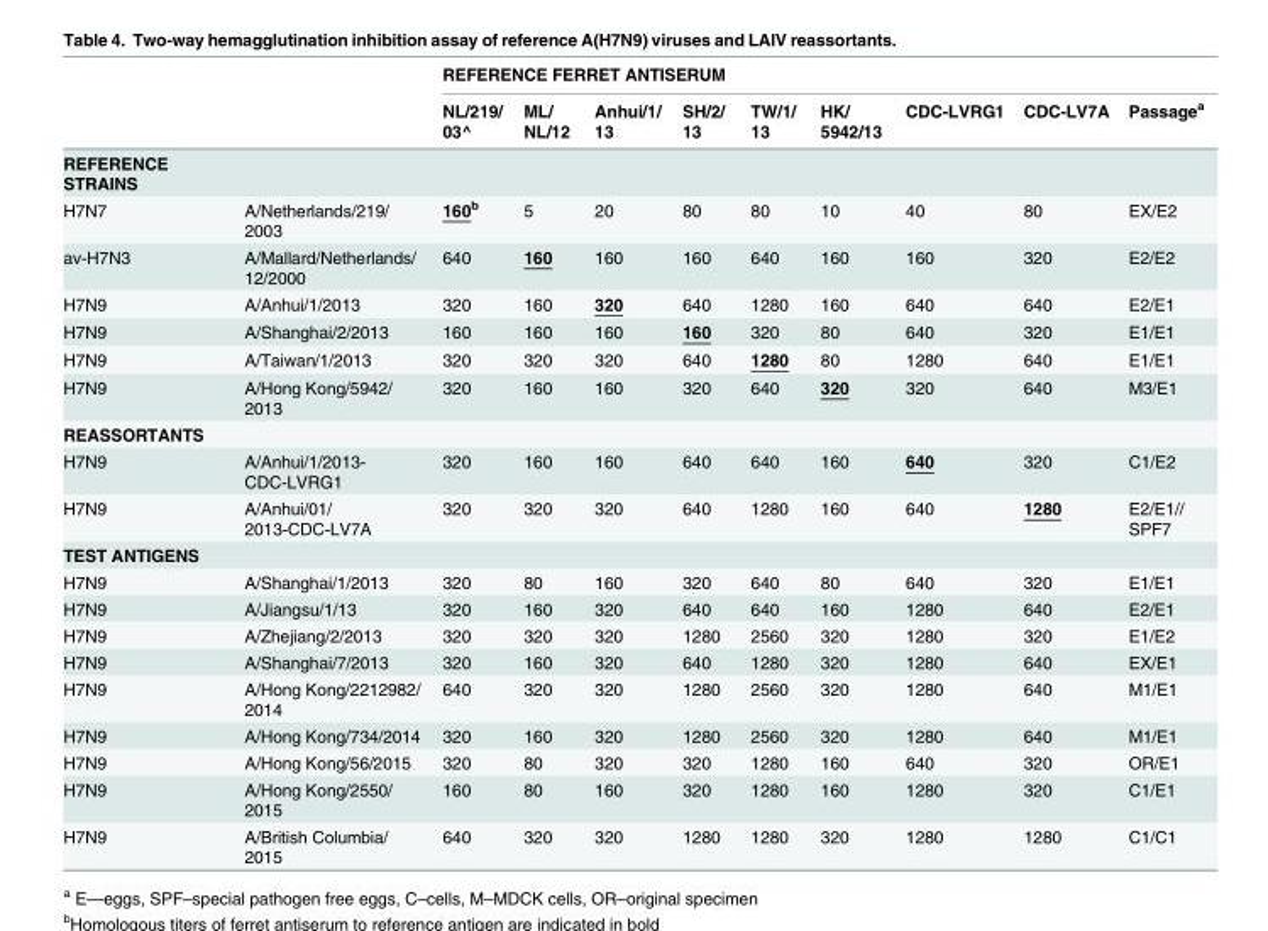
<table><thead><tr><td rowspan="2"></td><td rowspan="2"></td><td colspan="9">REFERENCE FERRET ANTISERUM</td></tr><tr><td>NL/219/ 03^</td><td>ML/ NL/12</td><td>Anhui/1/ 13</td><td>SH/2/ 13</td><td>TW/1/ 13</td><td>HK/ 5942/13</td><td>CDC-LVRG1</td><td>CDC-LV7A</td><td>Passage<sup>a</sup></td></tr></thead><tbody><tr><td colspan="11">REFERENCE STRAINS</td></tr><tr><td>H7N7</td><td>A/Netherlands/219/ 2003</td><td>160<sup>b</sup></td><td>5</td><td>20</td><td>80</td><td>80</td><td>10</td><td>40</td><td>80</td><td>EX/E2</td></tr><tr><td>av-H7N3</td><td>A/Mallard/Netherlands/ 12/2000</td><td>640</td><td>160</td><td>160</td><td>160</td><td>640</td><td>160</td><td>160</td><td>320</td><td>E2/E2</td></tr><tr><td>H7N9</td><td>A/Anhui/1/2013</td><td>320</td><td>160</td><td>320</td><td>640</td><td>1280</td><td>160</td><td>640</td><td>640</td><td>E2/E1</td></tr><tr><td>H7N9</td><td>A/Shanghai/2/2013</td><td>160</td><td>160</td><td>160</td><td>160</td><td>320</td><td>80</td><td>640</td><td>320</td><td>E1/E1</td></tr><tr><td>H7N9</td><td>A/Taiwan/1/2013</td><td>320</td><td>320</td><td>320</td><td>640</td><td>1280</td><td>80</td><td>1280</td><td>640</td><td>E1/E1</td></tr><tr><td>H7N9</td><td>A/Hong Kong/5942/ 2013</td><td>320</td><td>160</td><td>160</td><td>320</td><td>640</td><td>320</td><td>320</td><td>640</td><td>M3/E1</td></tr><tr><td colspan="11">REASSORTANTS</td></tr><tr><td>H7N9</td><td>A/Anhui/1/2013- CDC-LVRG1</td><td>320</td><td>160</td><td>160</td><td>640</td><td>640</td><td>160</td><td>640</td><td>320</td><td>C1/E2</td></tr><tr><td>H7N9</td><td>A/Anhui/01/ 2013-CDC-LV7A</td><td>320</td><td>320</td><td>320</td><td>640</td><td>1280</td><td>160</td><td>640</td><td>1280</td><td>E2/E1// SPF7</td></tr><tr><td colspan="11">TEST ANTIGENS</td></tr><tr><td>H7N9</td><td>A/Shanghai/1/2013</td><td>320</td><td>80</td><td>160</td><td>320</td><td>640</td><td>80</td><td>640</td><td>320</td><td>E1/E1</td></tr><tr><td>H7N9</td><td>A/Jiangsu/1/13</td><td>320</td><td>160</td><td>320</td><td>640</td><td>640</td><td>160</td><td>1280</td><td>640</td><td>E2/E1</td></tr><tr><td>H7N9</td><td>A/Zhejiang/2/2013</td><td>320</td><td>320</td><td>320</td><td>1280</td><td>2560</td><td>320</td><td>1280</td><td>320</td><td>E1/E2</td></tr><tr><td>H7N9</td><td>A/Shanghai/7/2013</td><td>320</td><td>160</td><td>320</td><td>640</td><td>1280</td><td>320</td><td>1280</td><td>640</td><td>EX/E1</td></tr><tr><td>H7N9</td><td>A/Hong Kong/2212982/ 2014</td><td>640</td><td>320</td><td>320</td><td>1280</td><td>2560</td><td>320</td><td>1280</td><td>640</td><td>M1/E1</td></tr><tr><td>H7N9</td><td>A/Hong Kong/734/2014</td><td>320</td><td>160</td><td>320</td><td>1280</td><td>2560</td><td>320</td><td>1280</td><td>640</td><td>M1/E1</td></tr><tr><td>H7N9</td><td>A/Hong Kong/56/2015</td><td>320</td><td>80</td><td>320</td><td>320</td><td>1280</td><td>160</td><td>640</td><td>320</td><td>OR/E1</td></tr><tr><td>H7N9</td><td>A/Hong Kong/2550/ 2015</td><td>160</td><td>80</td><td>160</td><td>320</td><td>1280</td><td>160</td><td>1280</td><td>320</td><td>C1/E1</td></tr><tr><td>H7N9</td><td>A/British Columbia/ 2015</td><td>640</td><td>320</td><td>320</td><td>1280</td><td>1280</td><td>320</td><td>1280</td><td>1280</td><td>C1/C1</td></tr></tbody></table>